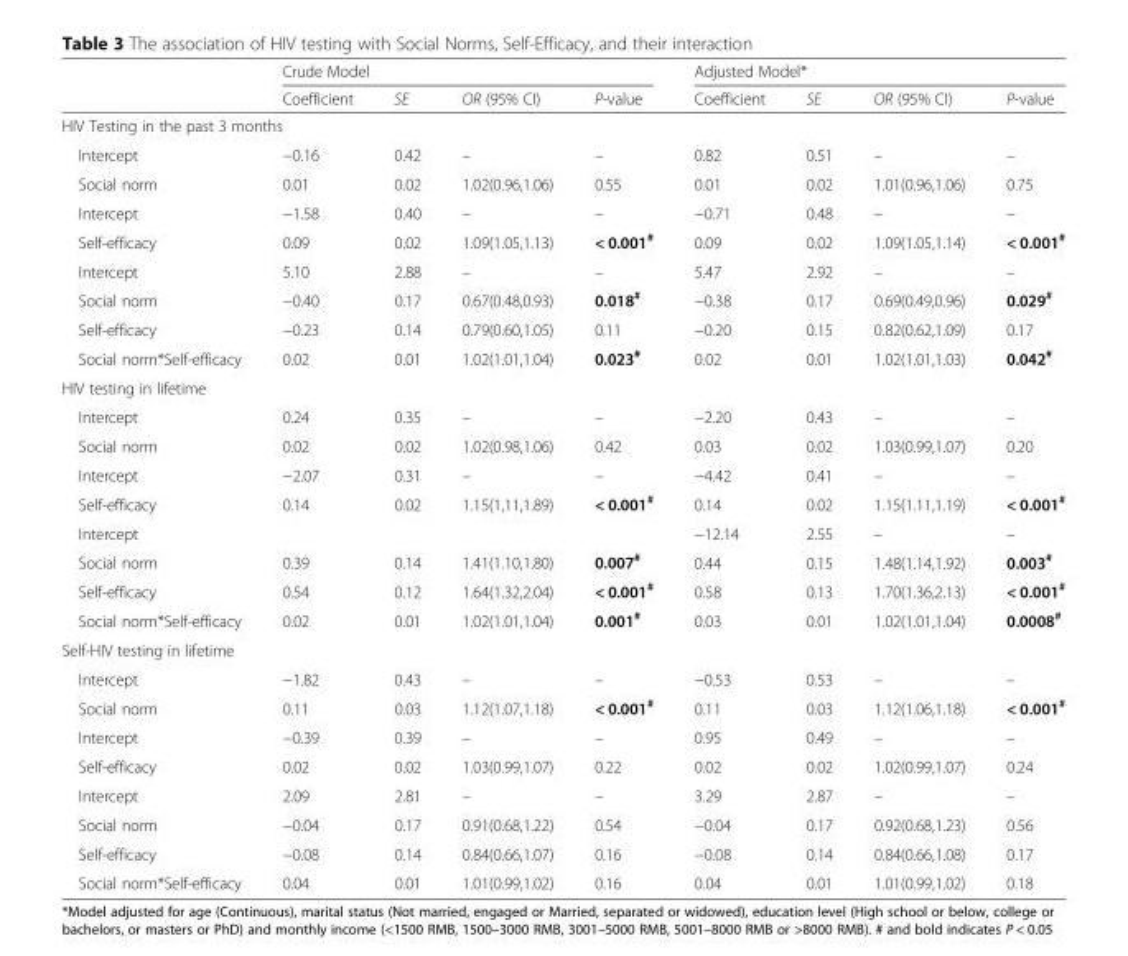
<table><thead><tr><td rowspan="2"></td><td colspan="4">Crude Model</td><td colspan="4">Adjusted Model*</td></tr><tr><td>Coefficient</td><td>SE</td><td>OR (95% CI)</td><td>P-value</td><td>Coefficient</td><td>SE</td><td>OR (95% CI)</td><td>P-value</td></tr></thead><tbody><tr><td colspan="9">HIV Testing in the past 3 months</td></tr><tr><td>Intercept</td><td>−0.16</td><td>0.42</td><td>–</td><td>–</td><td>0.82</td><td>0.51</td><td>–</td><td>–</td></tr><tr><td>Social norm</td><td>0.01</td><td>0.02</td><td>1.02(0.96,1.06)</td><td>0.55</td><td>0.01</td><td>0.02</td><td>1.01(0.96,1.06)</td><td>0.75</td></tr><tr><td>Intercept</td><td>−1.58</td><td>0.40</td><td>–</td><td>–</td><td>−0.71</td><td>0.48</td><td>–</td><td>–</td></tr><tr><td>Self-efficacy</td><td>0.09</td><td>0.02</td><td>1.09(1.05,1.13)</td><td>&lt; 0.001<sup>#</sup></td><td>0.09</td><td>0.02</td><td>1.09(1.05,1.14)</td><td>&lt; 0.001<sup>#</sup></td></tr><tr><td>Intercept</td><td>5.10</td><td>2.88</td><td>–</td><td>–</td><td>5.47</td><td>2.92</td><td>–</td><td>–</td></tr><tr><td>Social norm</td><td>−0.40</td><td>0.17</td><td>0.67(0.48,0.93)</td><td>0.018<sup>#</sup></td><td>−0.38</td><td>0.17</td><td>0.69(0.49,0.96)</td><td>0.029<sup>#</sup></td></tr><tr><td>Self-efficacy</td><td>−0.23</td><td>0.14</td><td>0.79(0.60,1.05)</td><td>0.11</td><td>−0.20</td><td>0.15</td><td>0.82(0.62,1.09)</td><td>0.17</td></tr><tr><td>Social norm*Self-efficacy</td><td>0.02</td><td>0.01</td><td>1.02(1.01,1.04)</td><td>0.023<sup>#</sup></td><td>0.02</td><td>0.01</td><td>1.02(1.01,1.03)</td><td>0.042<sup>#</sup></td></tr><tr><td colspan="9">HIV testing in lifetime</td></tr><tr><td>Intercept</td><td>0.24</td><td>0.35</td><td>–</td><td>–</td><td>−2.20</td><td>0.43</td><td>–</td><td>–</td></tr><tr><td>Social norm</td><td>0.02</td><td>0.02</td><td>1.02(0.98,1.06)</td><td>0.42</td><td>0.03</td><td>0.02</td><td>1.03(0.99,1.07)</td><td>0.20</td></tr><tr><td>Intercept</td><td>−2.07</td><td>0.31</td><td>–</td><td>–</td><td>−4.42</td><td>0.41</td><td>–</td><td>–</td></tr><tr><td>Self-efficacy</td><td>0.14</td><td>0.02</td><td>1.15(1,11,1.89)</td><td>&lt; 0.001<sup>#</sup></td><td>0.14</td><td>0.02</td><td>1.15(1.11,1.19)</td><td>&lt; 0.001<sup>#</sup></td></tr><tr><td>Intercept</td><td></td><td></td><td></td><td></td><td>−12.14</td><td>2.55</td><td>–</td><td>–</td></tr><tr><td>Social norm</td><td>0.39</td><td>0.14</td><td>1.41(1.10,1.80)</td><td>0.007<sup>#</sup></td><td>0.44</td><td>0.15</td><td>1.48(1.14,1.92)</td><td>0.003<sup>#</sup></td></tr><tr><td>Self-efficacy</td><td>0.54</td><td>0.12</td><td>1.64(1.32,2.04)</td><td>&lt; 0.001<sup>#</sup></td><td>0.58</td><td>0.13</td><td>1.70(1.36,2.13)</td><td>&lt; 0.001<sup>#</sup></td></tr><tr><td>Social norm*Self-efficacy</td><td>0.02</td><td>0.01</td><td>1.02(1.01,1.04)</td><td>0.001<sup>#</sup></td><td>0.03</td><td>0.01</td><td>1.02(1.01,1.04)</td><td>0.0008<sup>#</sup></td></tr><tr><td colspan="9">Self-HIV testing in lifetime</td></tr><tr><td>Intercept</td><td>−1.82</td><td>0.43</td><td>–</td><td>–</td><td>−0.53</td><td>0.53</td><td>–</td><td>–</td></tr><tr><td>Social norm</td><td>0.11</td><td>0.03</td><td>1.12(1.07,1.18)</td><td>&lt; 0.001<sup>#</sup></td><td>0.11</td><td>0.03</td><td>1.12(1.06,1.18)</td><td>&lt; 0.001<sup>#</sup></td></tr><tr><td>Intercept</td><td>−0.39</td><td>0.39</td><td>–</td><td>–</td><td>0.95</td><td>0.49</td><td>–</td><td>–</td></tr><tr><td>Self-efficacy</td><td>0.02</td><td>0.02</td><td>1.03(0.99,1.07)</td><td>0.22</td><td>0.02</td><td>0.02</td><td>1.02(0.99,1.07)</td><td>0.24</td></tr><tr><td>Intercept</td><td>2.09</td><td>2.81</td><td>–</td><td>–</td><td>3.29</td><td>2.87</td><td>–</td><td>–</td></tr><tr><td>Social norm</td><td>−0.04</td><td>0.17</td><td>0.91(0.68,1.22)</td><td>0.54</td><td>−0.04</td><td>0.17</td><td>0.92(0.68,1.23)</td><td>0.56</td></tr><tr><td>Self-efficacy</td><td>−0.08</td><td>0.14</td><td>0.84(0.66,1.07)</td><td>0.16</td><td>−0.08</td><td>0.14</td><td>0.84(0.66,1.08)</td><td>0.17</td></tr><tr><td>Social norm*Self-efficacy</td><td>0.04</td><td>0.01</td><td>1.01(0.99,1.02)</td><td>0.16</td><td>0.04</td><td>0.01</td><td>1.01(0.99,1.02)</td><td>0.18</td></tr></tbody></table>